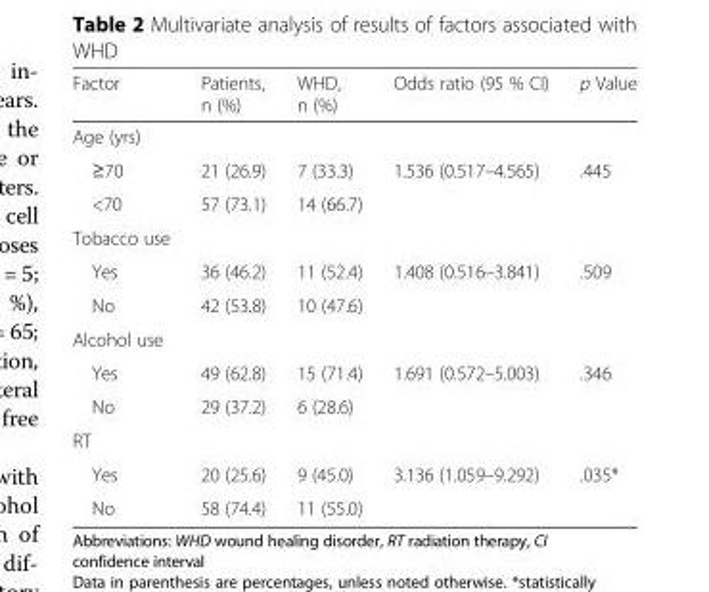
<table><thead><tr><td>Factor</td><td>Patients, n (%)</td><td>WHD, n (%)</td><td>Odds ratio (95 % CI)</td><td>p Value</td></tr></thead><tbody><tr><td colspan="5">Age (yrs)</td></tr><tr><td>≥70</td><td>21 (26.9)</td><td>7 (33.3)</td><td>1.536 (0.517–4.565)</td><td>.445</td></tr><tr><td>&lt;70</td><td>57 (73.1)</td><td>14 (66.7)</td><td></td><td></td></tr><tr><td colspan="5">Tobacco use</td></tr><tr><td>Yes</td><td>36 (46.2)</td><td>11 (52.4)</td><td>1.408 (0.516–3.841)</td><td>.509</td></tr><tr><td>No</td><td>42 (53.8)</td><td>10 (47.6)</td><td></td><td></td></tr><tr><td colspan="5">Alcohol use</td></tr><tr><td>Yes</td><td>49 (62.8)</td><td>15 (71.4)</td><td>1.691 (0.572–5.003)</td><td>.346</td></tr><tr><td>No</td><td>29 (37.2)</td><td>6 (28.6)</td><td></td><td></td></tr><tr><td colspan="5">RT</td></tr><tr><td>Yes</td><td>20 (25.6)</td><td>9 (45.0)</td><td>3.136 (1.059–9.292)</td><td>.035*</td></tr><tr><td>No</td><td>58 (74.4)</td><td>11 (55.0)</td><td></td><td></td></tr></tbody></table>